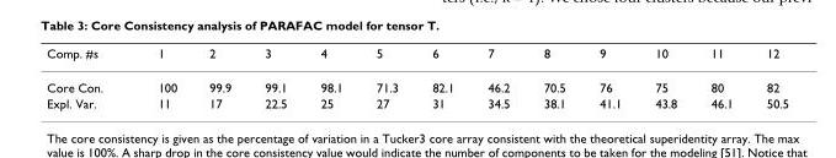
<table><thead><tr><td>Comp. #s</td><td>1</td><td>2</td><td>3</td><td>4</td><td>5</td><td>6</td><td>7</td><td>8</td><td>9</td><td>10</td><td>11</td><td>12</td></tr></thead><tbody><tr><td>Core Con.</td><td>100</td><td>99.9</td><td>99.1</td><td>98.1</td><td>71.3</td><td>82.1</td><td>46.2</td><td>70.5</td><td>76</td><td>75</td><td>80</td><td>82</td></tr><tr><td>Expl. Var.</td><td>11</td><td>17</td><td>22.5</td><td>25</td><td>27</td><td>31</td><td>34.5</td><td>38.1</td><td>41.1</td><td>43.8</td><td>46.1</td><td>50.5</td></tr></tbody></table>